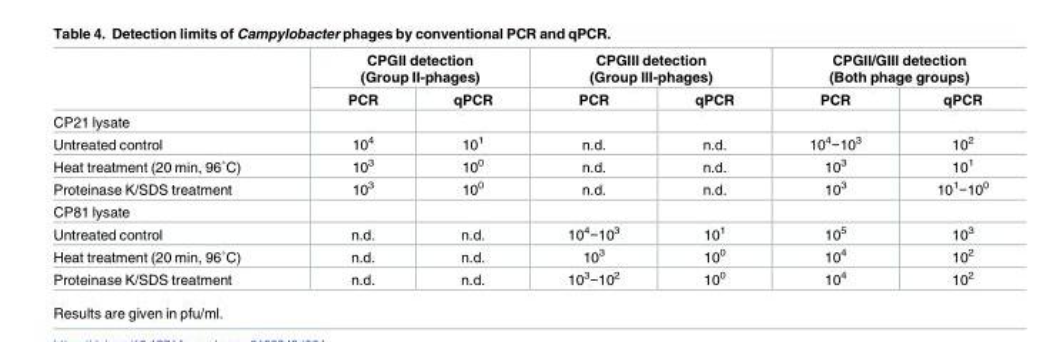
<table><thead><tr><td rowspan="2"></td><td colspan="2">CPGII detection (Group II-phages)</td><td colspan="2">CPGIII detection (Group III-phages)</td><td colspan="2">CPGII/GIII detection (Both phage groups)</td></tr><tr><td>PCR</td><td>qPCR</td><td>PCR</td><td>qPCR</td><td>PCR</td><td>qPCR</td></tr></thead><tbody><tr><td colspan="7">CP21 lysate</td></tr><tr><td>Untreated control</td><td>10<sup>4</sup></td><td>10<sup>1</sup></td><td>n.d.</td><td>n.d.</td><td>10<sup>4</sup>−10<sup>3</sup></td><td>10<sup>2</sup></td></tr><tr><td>Heat treatment (20 min, 96˚C)</td><td>10<sup>3</sup></td><td>10<sup>0</sup></td><td>n.d.</td><td>n.d.</td><td>10<sup>3</sup></td><td>10<sup>1</sup></td></tr><tr><td>Proteinase K/SDS treatment</td><td>10<sup>3</sup></td><td>10<sup>0</sup></td><td>n.d.</td><td>n.d.</td><td>10<sup>3</sup></td><td>10<sup>1</sup>−10<sup>0</sup></td></tr><tr><td colspan="7">CP81 lysate</td></tr><tr><td>Untreated control</td><td>n.d.</td><td>n.d.</td><td>10<sup>4</sup>−10<sup>3</sup></td><td>10<sup>1</sup></td><td>10<sup>5</sup></td><td>10<sup>3</sup></td></tr><tr><td>Heat treatment (20 min, 96˚C)</td><td>n.d.</td><td>n.d.</td><td>10<sup>3</sup></td><td>10<sup>0</sup></td><td>10<sup>4</sup></td><td>10<sup>2</sup></td></tr><tr><td>Proteinase K/SDS treatment</td><td>n.d.</td><td>n.d.</td><td>10<sup>3</sup>−10<sup>2</sup></td><td>10<sup>0</sup></td><td>10<sup>4</sup></td><td>10<sup>2</sup></td></tr></tbody></table>